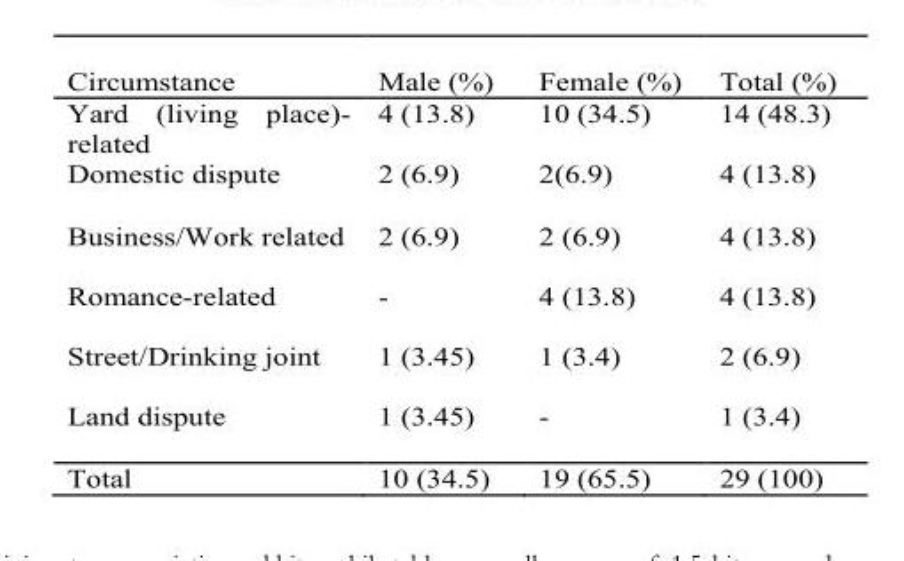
<table><thead><tr><td>Circumstance</td><td>Male (%)</td><td>Female (%)</td><td>Total (%)</td></tr></thead><tbody><tr><td>Yard (living place)- related</td><td>4 (13.8)</td><td>10 (34.5)</td><td>14 (48.3)</td></tr><tr><td>Domestic dispute</td><td>2 (6.9)</td><td>2(6.9)</td><td>4 (13.8)</td></tr><tr><td>Business/Work related</td><td>2 (6.9)</td><td>2 (6.9)</td><td>4 (13.8)</td></tr><tr><td>Romance-related</td><td>-</td><td>4 (13.8)</td><td>4 (13.8)</td></tr><tr><td>Street/Drinking joint</td><td>1 (3.45)</td><td>1 (3.4)</td><td>2 (6.9)</td></tr><tr><td>Land dispute</td><td>1 (3.45)</td><td>-</td><td>1 (3.4)</td></tr><tr><td>Total</td><td>10 (34.5)</td><td>19 (65.5)</td><td>29 (100)</td></tr></tbody></table>